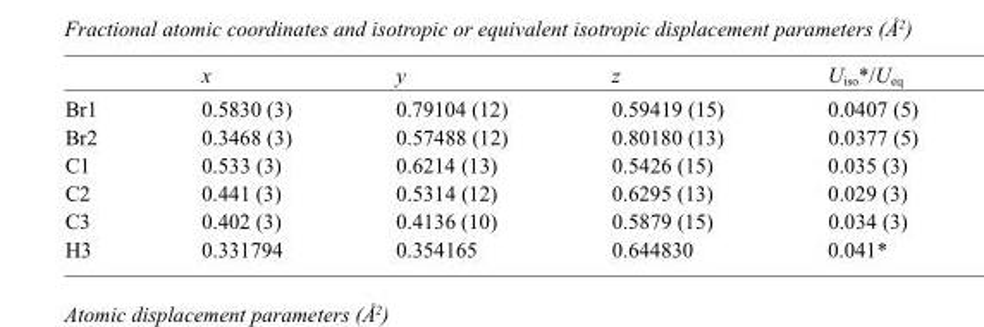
<table><thead><tr><td></td><td>x</td><td>y</td><td>z</td><td>U<sub>iso</sub>*/U<sub>eq</sub></td></tr></thead><tbody><tr><td>Br1</td><td>0.5830 (3)</td><td>0.79104 (12)</td><td>0.59419 (15)</td><td>0.0407 (5)</td></tr><tr><td>Br2</td><td>0.3468 (3)</td><td>0.57488 (12)</td><td>0.80180 (13)</td><td>0.0377 (5)</td></tr><tr><td>C1</td><td>0.533 (3)</td><td>0.6214 (13)</td><td>0.5426 (15)</td><td>0.035 (3)</td></tr><tr><td>C2</td><td>0.441 (3)</td><td>0.5314 (12)</td><td>0.6295 (13)</td><td>0.029 (3)</td></tr><tr><td>C3</td><td>0.402 (3)</td><td>0.4136 (10)</td><td>0.5879 (15)</td><td>0.034 (3)</td></tr><tr><td>H3</td><td>0.331794</td><td>0.354165</td><td>0.644830</td><td>0.041*</td></tr></tbody></table>